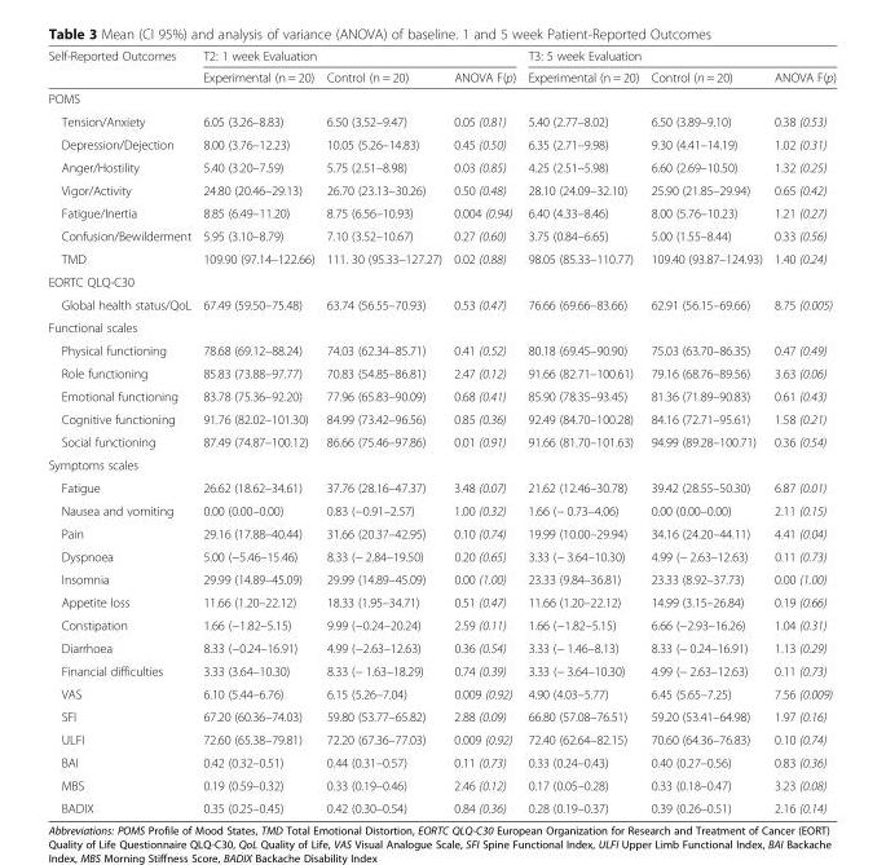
<table><thead><tr><td rowspan="2">Self-Reported Outcomes</td><td colspan="3">T2: 1 week Evaluation</td><td colspan="3">T3: 5 week Evaluation</td></tr><tr><td>Experimental (n = 20)</td><td>Control (n = 20)</td><td>ANOVA F(p)</td><td>Experimental (n = 20)</td><td>Control (n = 20)</td><td>ANOVA F(p)</td></tr></thead><tbody><tr><td colspan="7">POMS</td></tr><tr><td>Tension/Anxiety</td><td>6.05 (3.26–8.83)</td><td>6.50 (3.52–9.47)</td><td>0.05 (0.81)</td><td>5.40 (2.77–8.02)</td><td>6.50 (3.89–9.10)</td><td>0.38 (0.53)</td></tr><tr><td>Depression/Dejection</td><td>8.00 (3.76–12.23)</td><td>10.05 (5.26–14.83)</td><td>0.45 (0.50)</td><td>6.35 (2.71–9.98)</td><td>9.30 (4.41–14.19)</td><td>1.02 (0.31)</td></tr><tr><td>Anger/Hostility</td><td>5.40 (3.20–7.59)</td><td>5.75 (2.51–8.98)</td><td>0.03 (0.85)</td><td>4.25 (2.51–5.98)</td><td>6.60 (2.69–10.50)</td><td>1.32 (0.25)</td></tr><tr><td>Vigor/Activity</td><td>24.80 (20.46–29.13)</td><td>26.70 (23.13–30.26)</td><td>0.50 (0.48)</td><td>28.10 (24.09–32.10)</td><td>25.90 (21.85–29.94)</td><td>0.65 (0.42)</td></tr><tr><td>Fatigue/Inertia</td><td>8.85 (6.49–11.20)</td><td>8.75 (6.56–10.93)</td><td>0.004 (0.94)</td><td>6.40 (4.33–8.46)</td><td>8.00 (5.76–10.23)</td><td>1.21 (0.27)</td></tr><tr><td>Confusion/Bewilderment</td><td>5.95 (3.10–8.79)</td><td>7.10 (3.52–10.67)</td><td>0.27 (0.60)</td><td>3.75 (0.84–6.65)</td><td>5.00 (1.55–8.44)</td><td>0.33 (0.56)</td></tr><tr><td>TMD</td><td>109.90 (97.14–122.66)</td><td>111. 30 (95.33–127.27)</td><td>0.02 (0.88)</td><td>98.05 (85.33–110.77)</td><td>109.40 (93.87–124.93)</td><td>1.40 (0.24)</td></tr><tr><td colspan="7">EORTC QLQ-C30</td></tr><tr><td>Global health status/QoL</td><td>67.49 (59.50–75.48)</td><td>63.74 (56.55–70.93)</td><td>0.53 (0.47)</td><td>76.66 (69.66–83.66)</td><td>62.91 (56.15–69.66)</td><td>8.75 (0.005)</td></tr><tr><td colspan="7">Functional scales</td></tr><tr><td>Physical functioning</td><td>78.68 (69.12–88.24)</td><td>74.03 (62.34–85.71)</td><td>0.41 (0.52)</td><td>80.18 (69.45–90.90)</td><td>75.03 (63.70–86.35)</td><td>0.47 (0.49)</td></tr><tr><td>Role functioning</td><td>85.83 (73.88–97.77)</td><td>70.83 (54.85–86.81)</td><td>2.47 (0.12)</td><td>91.66 (82.71–100.61)</td><td>79.16 (68.76–89.56)</td><td>3.63 (0.06)</td></tr><tr><td>Emotional functioning</td><td>83.78 (75.36–92.20)</td><td>77.96 (65.83–90.09)</td><td>0.68 (0.41)</td><td>85.90 (78.35–93.45)</td><td>81.36 (71.89–90.83)</td><td>0.61 (0.43)</td></tr><tr><td>Cognitive functioning</td><td>91.76 (82.02–101.30)</td><td>84.99 (73.42–96.56)</td><td>0.85 (0.36)</td><td>92.49 (84.70–100.28)</td><td>84.16 (72.71–95.61)</td><td>1.58 (0.21)</td></tr><tr><td>Social functioning</td><td>87.49 (74.87–100.12)</td><td>86.66 (75.46–97.86)</td><td>0.01 (0.91)</td><td>91.66 (81.70–101.63)</td><td>94.99 (89.28–100.71)</td><td>0.36 (0.54)</td></tr><tr><td colspan="7">Symptoms scales</td></tr><tr><td>Fatigue</td><td>26.62 (18.62–34.61)</td><td>37.76 (28.16–47.37)</td><td>3.48 (0.07)</td><td>21.62 (12.46–30.78)</td><td>39.42 (28.55–50.30)</td><td>6.87 (0.01)</td></tr><tr><td>Nausea and vomiting</td><td>0.00 (0.00–0.00)</td><td>0.83 (−0.91–2.57)</td><td>1.00 (0.32)</td><td>1.66 (− 0.73–4.06)</td><td>0.00 (0.00–0.00)</td><td>2.11 (0.15)</td></tr><tr><td>Pain</td><td>29.16 (17.88–40.44)</td><td>31.66 (20.37–42.95)</td><td>0.10 (0.74)</td><td>19.99 (10.00–29.94)</td><td>34.16 (24.20–44.11)</td><td>4.41 (0.04)</td></tr><tr><td>Dyspnoea</td><td>5.00 (−5.46–15.46)</td><td>8.33 (− 2.84–19.50)</td><td>0.20 (0.65)</td><td>3.33 (− 3.64–10.30)</td><td>4.99 (− 2.63–12.63)</td><td>0.11 (0.73)</td></tr><tr><td>Insomnia</td><td>29.99 (14.89–45.09)</td><td>29.99 (14.89–45.09)</td><td>0.00 (1.00)</td><td>23.33 (9.84–36.81)</td><td>23.33 (8.92–37.73)</td><td>0.00 (1.00)</td></tr><tr><td>Appetite loss</td><td>11.66 (1.20–22.12)</td><td>18.33 (1.95–34.71)</td><td>0.51 (0.47)</td><td>11.66 (1.20–22.12)</td><td>14.99 (3.15–26.84)</td><td>0.19 (0.66)</td></tr><tr><td>Constipation</td><td>1.66 (−1.82–5.15)</td><td>9.99 (−0.24–20.24)</td><td>2.59 (0.11)</td><td>1.66 (−1.82–5.15)</td><td>6.66 (−2.93–16.26)</td><td>1.04 (0.31)</td></tr><tr><td>Diarrhoea</td><td>8.33 (−0.24–16.91)</td><td>4.99 (−2.63–12.63)</td><td>0.36 (0.54)</td><td>3.33 (− 1.46–8.13)</td><td>8.33 (− 0.24–16.91)</td><td>1.13 (0.29)</td></tr><tr><td>Financial difficulties</td><td>3.33 (3.64–10.30)</td><td>8.33 (− 1.63–18.29)</td><td>0.74 (0.39)</td><td>3.33 (− 3.64–10.30)</td><td>4.99 (− 2.63–12.63)</td><td>0.11 (0.73)</td></tr><tr><td>VAS</td><td>6.10 (5.44–6.76)</td><td>6.15 (5.26–7.04)</td><td>0.009 (0.92)</td><td>4.90 (4.03–5.77)</td><td>6.45 (5.65–7.25)</td><td>7.56 (0.009)</td></tr><tr><td>SFI</td><td>67.20 (60.36–74.03)</td><td>59.80 (53.77–65.82)</td><td>2.88 (0.09)</td><td>66.80 (57.08–76.51)</td><td>59.20 (53.41–64.98)</td><td>1.97 (0.16)</td></tr><tr><td>ULFI</td><td>72.60 (65.38–79.81)</td><td>72.20 (67.36–77.03)</td><td>0.009 (0.92)</td><td>72.40 (62.64–82.15)</td><td>70.60 (64.36–76.83)</td><td>0.10 (0.74)</td></tr><tr><td>BAI</td><td>0.42 (0.32–0.51)</td><td>0.44 (0.31–0.57)</td><td>0.11 (0.73)</td><td>0.33 (0.24–0.43)</td><td>0.40 (0.27–0.56)</td><td>0.83 (0.36)</td></tr><tr><td>MBS</td><td>0.19 (0.59–0.32)</td><td>0.33 (0.19–0.46)</td><td>2.46 (0.12)</td><td>0.17 (0.05–0.28)</td><td>0.33 (0.18–0.47)</td><td>3.23 (0.08)</td></tr><tr><td>BADIX</td><td>0.35 (0.25–0.45)</td><td>0.42 (0.30–0.54)</td><td>0.84 (0.36)</td><td>0.28 (0.19–0.37)</td><td>0.39 (0.26–0.51)</td><td>2.16 (0.14)</td></tr></tbody></table>